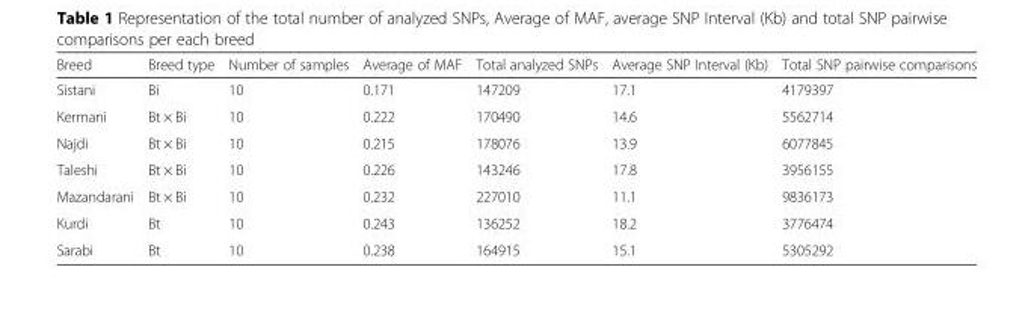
<table><thead><tr><td>Breed</td><td>Breed type</td><td>Number of samples</td><td>Average of MAF</td><td>Total analyzed SNPs</td><td>Average SNP Interval (Kb)</td><td>Total SNP pairwise comparisons</td></tr></thead><tbody><tr><td>Sistani</td><td>Bi</td><td>10</td><td>0.171</td><td>147209</td><td>17.1</td><td>4179397</td></tr><tr><td>Kermani</td><td>Bt × Bi</td><td>10</td><td>0.222</td><td>170490</td><td>14.6</td><td>5562714</td></tr><tr><td>Najdi</td><td>Bt × Bi</td><td>10</td><td>0.215</td><td>178076</td><td>13.9</td><td>6077845</td></tr><tr><td>Taleshi</td><td>Bt × Bi</td><td>10</td><td>0.226</td><td>143246</td><td>17.8</td><td>3956155</td></tr><tr><td>Mazandarani</td><td>Bt × Bi</td><td>10</td><td>0.232</td><td>227010</td><td>11.1</td><td>9836173</td></tr><tr><td>Kurdi</td><td>Bt</td><td>10</td><td>0.243</td><td>136252</td><td>18.2</td><td>3776474</td></tr><tr><td>Sarabi</td><td>Bt</td><td>10</td><td>0.238</td><td>164915</td><td>15.1</td><td>5305292</td></tr></tbody></table>